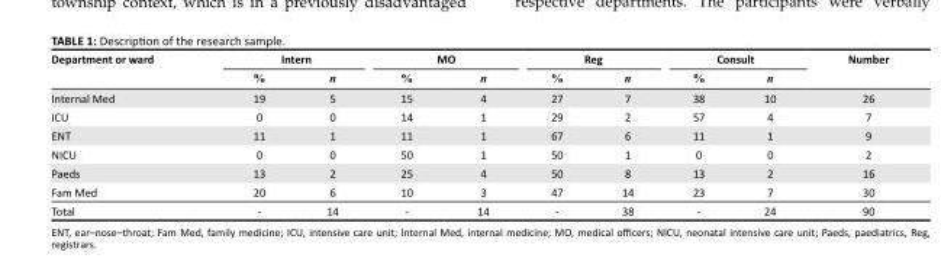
<table><thead><tr><td rowspan="2">Department or ward</td><td colspan="2">Intern</td><td colspan="2">MO</td><td colspan="2">Reg</td><td colspan="2">Consult</td><td rowspan="2">Number</td></tr><tr><td>%</td><td>n</td><td>%</td><td>n</td><td>%</td><td>n</td><td>%</td><td>n</td></tr></thead><tbody><tr><td>Internal Med</td><td>19</td><td>5</td><td>15</td><td>4</td><td>27</td><td>7</td><td>38</td><td>10</td><td>26</td></tr><tr><td>ICU</td><td>0</td><td>0</td><td>14</td><td>1</td><td>29</td><td>2</td><td>57</td><td>4</td><td>7</td></tr><tr><td>ENT</td><td>11</td><td>1</td><td>11</td><td>1</td><td>67</td><td>6</td><td>11</td><td>1</td><td>9</td></tr><tr><td>NICU</td><td>0</td><td>0</td><td>50</td><td>1</td><td>50</td><td>1</td><td>0</td><td>0</td><td>2</td></tr><tr><td>Paeds</td><td>13</td><td>2</td><td>25</td><td>4</td><td>50</td><td>8</td><td>13</td><td>2</td><td>16</td></tr><tr><td>Fam Med</td><td>20</td><td>6</td><td>10</td><td>3</td><td>47</td><td>14</td><td>23</td><td>7</td><td>30</td></tr><tr><td>Total</td><td>-</td><td>14</td><td>-</td><td>14</td><td>-</td><td>38</td><td>-</td><td>24</td><td>90</td></tr></tbody></table>